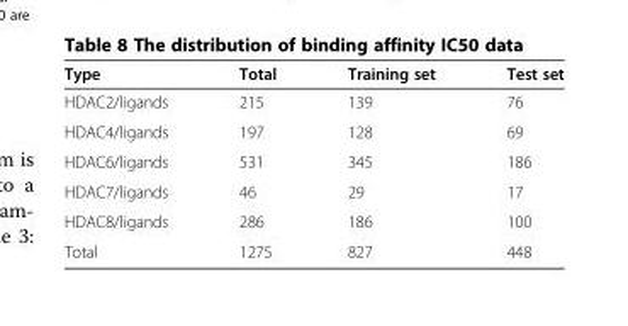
<table><thead><tr><td>Type</td><td>Total</td><td>Training set</td><td>Test set</td></tr></thead><tbody><tr><td>HDAC2/ligands</td><td>215</td><td>139</td><td>76</td></tr><tr><td>HDAC4/ligands</td><td>197</td><td>128</td><td>69</td></tr><tr><td>HDAC6/ligands</td><td>531</td><td>345</td><td>186</td></tr><tr><td>HDAC7/ligands</td><td>46</td><td>29</td><td>17</td></tr><tr><td>HDAC8/ligands</td><td>286</td><td>186</td><td>100</td></tr><tr><td>Total</td><td>1275</td><td>827</td><td>448</td></tr></tbody></table>